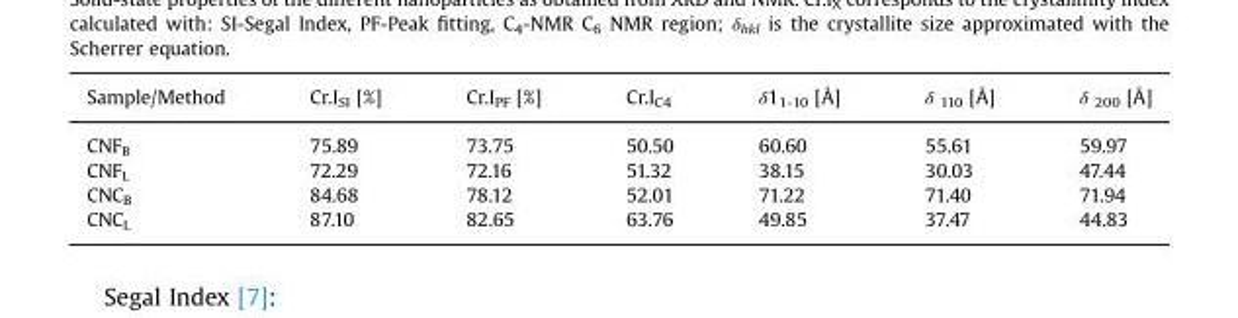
<table><thead><tr><td>Sample/Method</td><td>Cr.I<sub>SI</sub> [%]</td><td>Cr.I<sub>PF</sub> [%]</td><td>Cr.I<sub>C4</sub></td><td>δ1<sub>1-10</sub> [Å]</td><td>δ <sub>110</sub> [Å]</td><td>δ <sub>200</sub> [Å]</td></tr></thead><tbody><tr><td>CNF<sub>B</sub></td><td>75.89</td><td>73.75</td><td>50.50</td><td>60.60</td><td>55.61</td><td>59.97</td></tr><tr><td>CNF<sub>L</sub></td><td>72.29</td><td>72.16</td><td>51.32</td><td>38.15</td><td>30.03</td><td>47.44</td></tr><tr><td>CNC<sub>B</sub></td><td>84.68</td><td>78.12</td><td>52.01</td><td>71.22</td><td>71.40</td><td>71.94</td></tr><tr><td>CNC<sub>L</sub></td><td>87.10</td><td>82.65</td><td>63.76</td><td>49.85</td><td>37.47</td><td>44.83</td></tr></tbody></table>